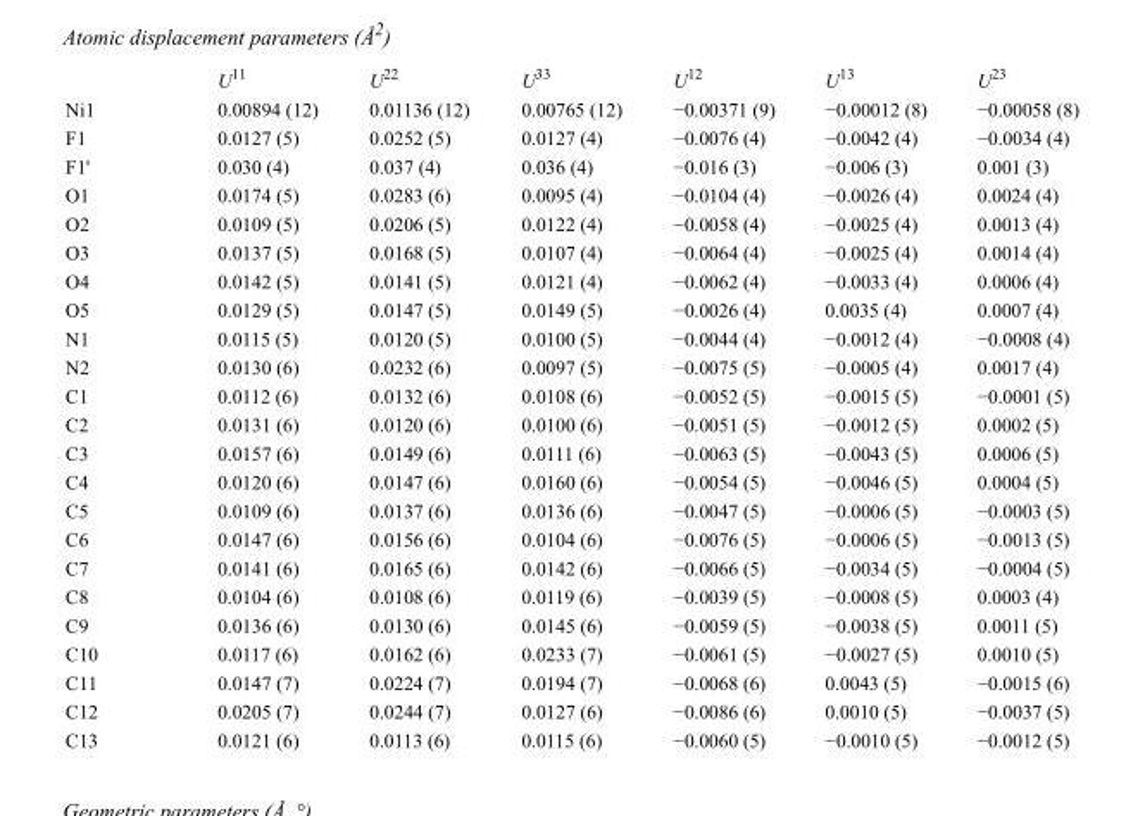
<table><thead><tr><td></td><td>U<sup>11</sup></td><td>U<sup>22</sup></td><td>U<sup>33</sup></td><td>U<sup>12</sup></td><td>U<sup>13</sup></td><td>U<sup>23</sup></td></tr></thead><tbody><tr><td>Ni1</td><td>0.00894 (12)</td><td>0.01136 (12)</td><td>0.00765 (12)</td><td>−0.00371 (9)</td><td>−0.00012 (8)</td><td>−0.00058 (8)</td></tr><tr><td>F1</td><td>0.0127 (5)</td><td>0.0252 (5)</td><td>0.0127 (4)</td><td>−0.0076 (4)</td><td>−0.0042 (4)</td><td>−0.0034 (4)</td></tr><tr><td>F1&#x27;</td><td>0.030 (4)</td><td>0.037 (4)</td><td>0.036 (4)</td><td>−0.016 (3)</td><td>−0.006 (3)</td><td>0.001 (3)</td></tr><tr><td>O1</td><td>0.0174 (5)</td><td>0.0283 (6)</td><td>0.0095 (4)</td><td>−0.0104 (4)</td><td>−0.0026 (4)</td><td>0.0024 (4)</td></tr><tr><td>O2</td><td>0.0109 (5)</td><td>0.0206 (5)</td><td>0.0122 (4)</td><td>−0.0058 (4)</td><td>−0.0025 (4)</td><td>0.0013 (4)</td></tr><tr><td>O3</td><td>0.0137 (5)</td><td>0.0168 (5)</td><td>0.0107 (4)</td><td>−0.0064 (4)</td><td>−0.0025 (4)</td><td>0.0014 (4)</td></tr><tr><td>O4</td><td>0.0142 (5)</td><td>0.0141 (5)</td><td>0.0121 (4)</td><td>−0.0062 (4)</td><td>−0.0033 (4)</td><td>0.0006 (4)</td></tr><tr><td>O5</td><td>0.0129 (5)</td><td>0.0147 (5)</td><td>0.0149 (5)</td><td>−0.0026 (4)</td><td>0.0035 (4)</td><td>0.0007 (4)</td></tr><tr><td>N1</td><td>0.0115 (5)</td><td>0.0120 (5)</td><td>0.0100 (5)</td><td>−0.0044 (4)</td><td>−0.0012 (4)</td><td>−0.0008 (4)</td></tr><tr><td>N2</td><td>0.0130 (6)</td><td>0.0232 (6)</td><td>0.0097 (5)</td><td>−0.0075 (5)</td><td>−0.0005 (4)</td><td>0.0017 (4)</td></tr><tr><td>C1</td><td>0.0112 (6)</td><td>0.0132 (6)</td><td>0.0108 (6)</td><td>−0.0052 (5)</td><td>−0.0015 (5)</td><td>−0.0001 (5)</td></tr><tr><td>C2</td><td>0.0131 (6)</td><td>0.0120 (6)</td><td>0.0100 (6)</td><td>−0.0051 (5)</td><td>−0.0012 (5)</td><td>0.0002 (5)</td></tr><tr><td>C3</td><td>0.0157 (6)</td><td>0.0149 (6)</td><td>0.0111 (6)</td><td>−0.0063 (5)</td><td>−0.0043 (5)</td><td>0.0006 (5)</td></tr><tr><td>C4</td><td>0.0120 (6)</td><td>0.0147 (6)</td><td>0.0160 (6)</td><td>−0.0054 (5)</td><td>−0.0046 (5)</td><td>0.0004 (5)</td></tr><tr><td>C5</td><td>0.0109 (6)</td><td>0.0137 (6)</td><td>0.0136 (6)</td><td>−0.0047 (5)</td><td>−0.0006 (5)</td><td>−0.0003 (5)</td></tr><tr><td>C6</td><td>0.0147 (6)</td><td>0.0156 (6)</td><td>0.0104 (6)</td><td>−0.0076 (5)</td><td>−0.0006 (5)</td><td>−0.0013 (5)</td></tr><tr><td>C7</td><td>0.0141 (6)</td><td>0.0165 (6)</td><td>0.0142 (6)</td><td>−0.0066 (5)</td><td>−0.0034 (5)</td><td>−0.0004 (5)</td></tr><tr><td>C8</td><td>0.0104 (6)</td><td>0.0108 (6)</td><td>0.0119 (6)</td><td>−0.0039 (5)</td><td>−0.0008 (5)</td><td>0.0003 (4)</td></tr><tr><td>C9</td><td>0.0136 (6)</td><td>0.0130 (6)</td><td>0.0145 (6)</td><td>−0.0059 (5)</td><td>−0.0038 (5)</td><td>0.0011 (5)</td></tr><tr><td>C10</td><td>0.0117 (6)</td><td>0.0162 (6)</td><td>0.0233 (7)</td><td>−0.0061 (5)</td><td>−0.0027 (5)</td><td>0.0010 (5)</td></tr><tr><td>C11</td><td>0.0147 (7)</td><td>0.0224 (7)</td><td>0.0194 (7)</td><td>−0.0068 (6)</td><td>0.0043 (5)</td><td>−0.0015 (6)</td></tr><tr><td>C12</td><td>0.0205 (7)</td><td>0.0244 (7)</td><td>0.0127 (6)</td><td>−0.0086 (6)</td><td>0.0010 (5)</td><td>−0.0037 (5)</td></tr><tr><td>C13</td><td>0.0121 (6)</td><td>0.0113 (6)</td><td>0.0115 (6)</td><td>−0.0060 (5)</td><td>−0.0010 (5)</td><td>−0.0012 (5)</td></tr></tbody></table>